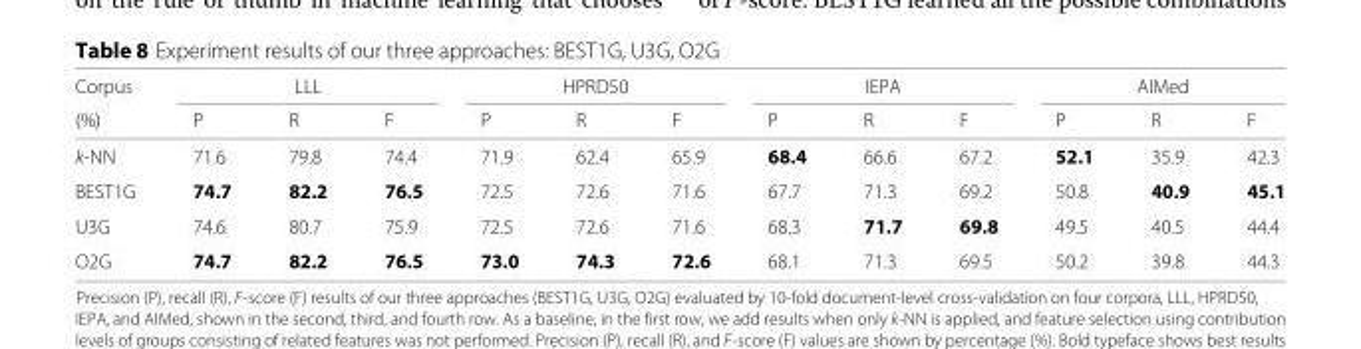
<table><thead><tr><td rowspan="2">Corpus (%)</td><td colspan="3">LLL</td><td colspan="3">HPRD50</td><td colspan="3">IEPA</td><td colspan="3">AIMed</td></tr><tr><td>P</td><td>R</td><td>F</td><td>P</td><td>R</td><td>F</td><td>P</td><td>R</td><td>F</td><td>P</td><td>R</td><td>F</td></tr></thead><tbody><tr><td>k-NN</td><td>71.6</td><td>79.8</td><td>74.4</td><td>71.9</td><td>62.4</td><td>65.9</td><td>68.4</td><td>66.6</td><td>67.2</td><td>52.1</td><td>35.9</td><td>42.3</td></tr><tr><td>BEST1G</td><td>74.7</td><td>82.2</td><td>76.5</td><td>72.5</td><td>72.6</td><td>71.6</td><td>67.7</td><td>71.3</td><td>69.2</td><td>50.8</td><td>40.9</td><td>45.1</td></tr><tr><td>U3G</td><td>74.6</td><td>80.7</td><td>75.9</td><td>72.5</td><td>72.6</td><td>71.6</td><td>68.3</td><td>71.7</td><td>69.8</td><td>49.5</td><td>40.5</td><td>44.4</td></tr><tr><td>O2G</td><td>74.7</td><td>82.2</td><td>76.5</td><td>73.0</td><td>74.3</td><td>72.6</td><td>68.1</td><td>71.3</td><td>69.5</td><td>50.2</td><td>39.8</td><td>44.3</td></tr></tbody></table>